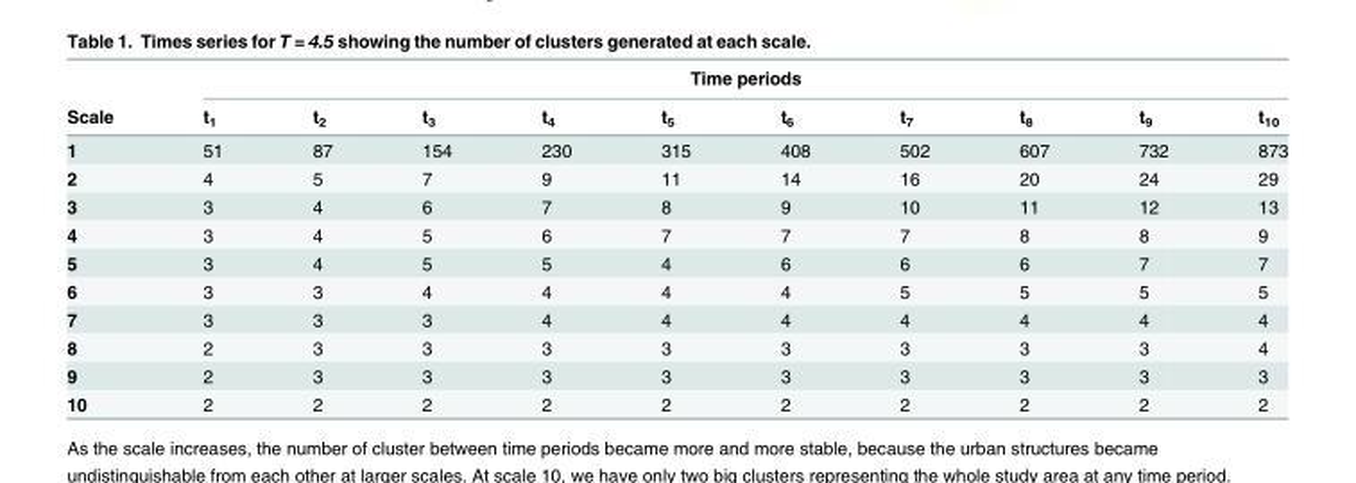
<table><thead><tr><td rowspan="2">Scale</td><td colspan="10">Time periods</td></tr><tr><td>t<sub>1</sub></td><td>t<sub>2</sub></td><td>t<sub>3</sub></td><td>t<sub>4</sub></td><td>t<sub>5</sub></td><td>t<sub>6</sub></td><td>t<sub>7</sub></td><td>t<sub>8</sub></td><td>t<sub>9</sub></td><td>t<sub>10</sub></td></tr></thead><tbody><tr><td>1</td><td>51</td><td>87</td><td>154</td><td>230</td><td>315</td><td>408</td><td>502</td><td>607</td><td>732</td><td>873</td></tr><tr><td>2</td><td>4</td><td>5</td><td>7</td><td>9</td><td>11</td><td>14</td><td>16</td><td>20</td><td>24</td><td>29</td></tr><tr><td>3</td><td>3</td><td>4</td><td>6</td><td>7</td><td>8</td><td>9</td><td>10</td><td>11</td><td>12</td><td>13</td></tr><tr><td>4</td><td>3</td><td>4</td><td>5</td><td>6</td><td>7</td><td>7</td><td>7</td><td>8</td><td>8</td><td>9</td></tr><tr><td>5</td><td>3</td><td>4</td><td>5</td><td>5</td><td>4</td><td>6</td><td>6</td><td>6</td><td>7</td><td>7</td></tr><tr><td>6</td><td>3</td><td>3</td><td>4</td><td>4</td><td>4</td><td>4</td><td>5</td><td>5</td><td>5</td><td>5</td></tr><tr><td>7</td><td>3</td><td>3</td><td>3</td><td>4</td><td>4</td><td>4</td><td>4</td><td>4</td><td>4</td><td>4</td></tr><tr><td>8</td><td>2</td><td>3</td><td>3</td><td>3</td><td>3</td><td>3</td><td>3</td><td>3</td><td>3</td><td>4</td></tr><tr><td>9</td><td>2</td><td>3</td><td>3</td><td>3</td><td>3</td><td>3</td><td>3</td><td>3</td><td>3</td><td>3</td></tr><tr><td>10</td><td>2</td><td>2</td><td>2</td><td>2</td><td>2</td><td>2</td><td>2</td><td>2</td><td>2</td><td>2</td></tr></tbody></table>